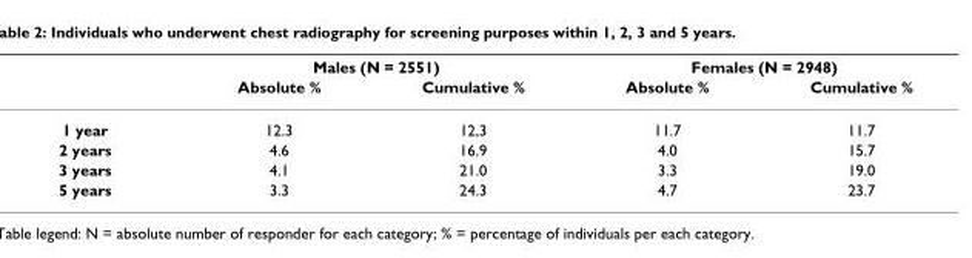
<table><thead><tr><td rowspan="2"></td><td colspan="2">Males (N = 2551)</td><td colspan="2">Females (N = 2948)</td></tr><tr><td>Absolute %</td><td>Cumulative %</td><td>Absolute %</td><td>Cumulative %</td></tr></thead><tbody><tr><td>1 year</td><td>12.3</td><td>12,3</td><td>11.7</td><td>11.7</td></tr><tr><td>2 years</td><td>4.6</td><td>16.9</td><td>4.0</td><td>15.7</td></tr><tr><td>3 years</td><td>4.1</td><td>21.0</td><td>3.3</td><td>19.0</td></tr><tr><td>5 years</td><td>3.3</td><td>24.3</td><td>4.7</td><td>23.7</td></tr></tbody></table>